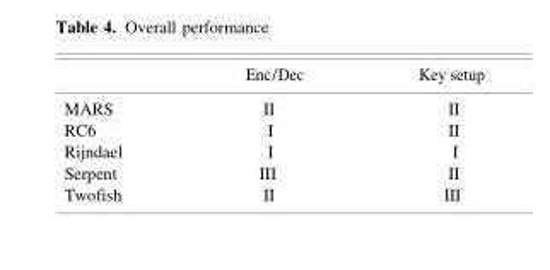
<table><thead><tr><td></td><td>Enc/Dec</td><td>Key setup</td></tr></thead><tbody><tr><td>MARS</td><td>II</td><td>II</td></tr><tr><td>RC6</td><td>I</td><td>II</td></tr><tr><td>Rijndael</td><td>I</td><td>I</td></tr><tr><td>Serpent</td><td>III</td><td>II</td></tr><tr><td>Twofish</td><td>II</td><td>III</td></tr></tbody></table>